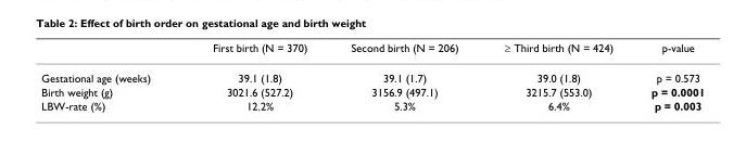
<table><thead><tr><td></td><td>First birth (N = 370)</td><td>Second birth (N = 206)</td><td>≥ Third birth (N = 424)</td><td>p-value</td></tr></thead><tbody><tr><td>Gestational age (weeks)</td><td>39.1 (1.8)</td><td>39.1 (1.7)</td><td>39.0 (1.8)</td><td>p = 0.573</td></tr><tr><td>Birth weight (g)</td><td>3021.6 (527.2)</td><td>3156.9 (497.1)</td><td>3215.7 (553.0)</td><td>p = 0.0001</td></tr><tr><td>LBW-rate (%)</td><td>12.2%</td><td>5.3%</td><td>6.4%</td><td>p = 0.003</td></tr></tbody></table>